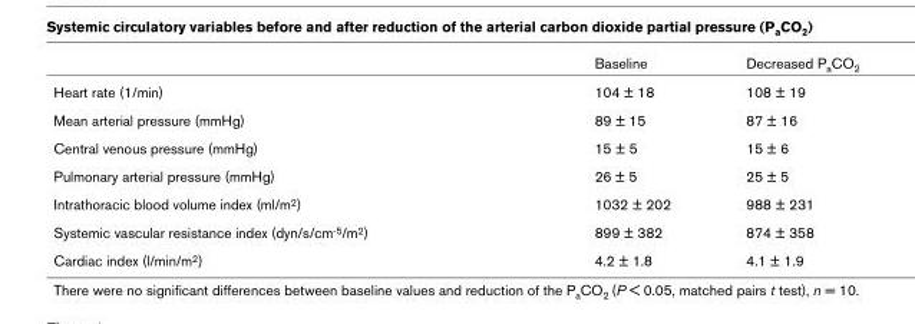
<table><thead><tr><td></td><td>Baseline</td><td>Decreased P<sub>a</sub>CO<sub>2</sub></td></tr></thead><tbody><tr><td>Heart rate (1/min)</td><td>104 ± 18</td><td>108 ± 19</td></tr><tr><td>Mean arterial pressure (mmHg)</td><td>89 ± 15</td><td>87 ± 16</td></tr><tr><td>Central venous pressure (mmHg)</td><td>15 ± 5</td><td>15 ± 6</td></tr><tr><td>Pulmonary arterial pressure (mmHg)</td><td>26 ± 5</td><td>25 ± 5</td></tr><tr><td>Intrathoracic blood volume index (ml/m<sup>2</sup>)</td><td>1032 ± 202</td><td>988 ± 231</td></tr><tr><td>Systemic vascular resistance index (dyn/s/cm<sup>-5</sup>/m<sup>2</sup>)</td><td>899 ± 382</td><td>874 ± 358</td></tr><tr><td>Cardiac index (l/min/m<sup>2</sup>)</td><td>4.2 ± 1.8</td><td>4.1 ± 1.9</td></tr></tbody></table>